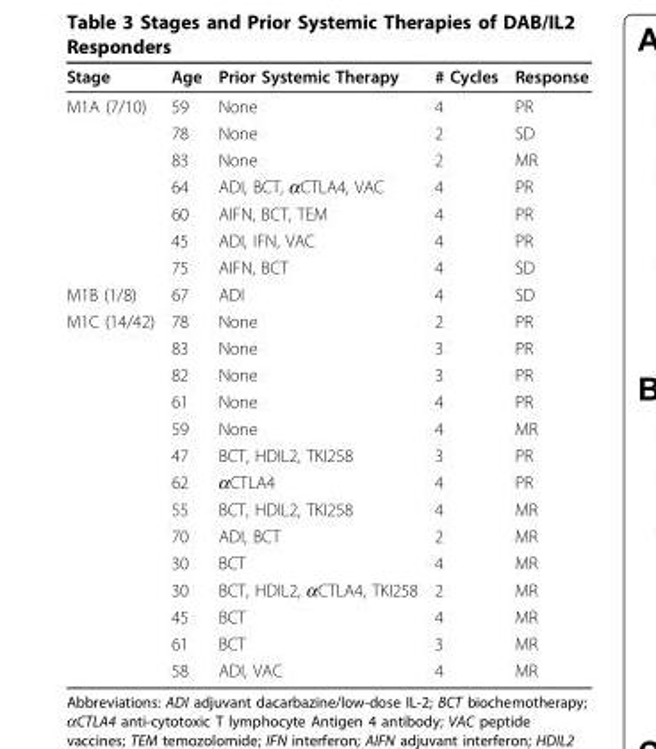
<table><thead><tr><td>Stage</td><td>Age</td><td>Prior Systemic Therapy</td><td># Cycles</td><td>Response</td></tr></thead><tbody><tr><td rowspan="7">M1A (7/10)</td><td>59</td><td>None</td><td>4</td><td>PR</td></tr><tr><td>78</td><td>None</td><td>2</td><td>SD</td></tr><tr><td>83</td><td>None</td><td>2</td><td>MR</td></tr><tr><td>64</td><td>ADI, BCT, αCTLA4, VAC</td><td>4</td><td>PR</td></tr><tr><td>60</td><td>AIFN, BCT, TEM</td><td>4</td><td>PR</td></tr><tr><td>45</td><td>ADI, IFN, VAC</td><td>4</td><td>PR</td></tr><tr><td>75</td><td>AIFN, BCT</td><td>4</td><td>SD</td></tr><tr><td>M1B (1/8)</td><td>67</td><td>ADI</td><td>4</td><td>SD</td></tr><tr><td rowspan="14">M1C (14/42)</td><td>78</td><td>None</td><td>2</td><td>PR</td></tr><tr><td>83</td><td>None</td><td>3</td><td>PR</td></tr><tr><td>82</td><td>None</td><td>3</td><td>PR</td></tr><tr><td>61</td><td>None</td><td>4</td><td>PR</td></tr><tr><td>59</td><td>None</td><td>4</td><td>MR</td></tr><tr><td>47</td><td>BCT, HDIL2, TKI258</td><td>3</td><td>PR</td></tr><tr><td>62</td><td>αCTLA4</td><td>4</td><td>PR</td></tr><tr><td>55</td><td>BCT, HDIL2, TKI258</td><td>4</td><td>MR</td></tr><tr><td>70</td><td>ADI, BCT</td><td>2</td><td>MR</td></tr><tr><td>30</td><td>BCT</td><td>4</td><td>MR</td></tr><tr><td>30</td><td>BCT, HDIL2, αCTLA4, TKI258</td><td>2</td><td>MR</td></tr><tr><td>45</td><td>BCT</td><td>4</td><td>MR</td></tr><tr><td>61</td><td>BCT</td><td>3</td><td>MR</td></tr><tr><td>58</td><td>ADI, VAC</td><td>4</td><td>MR</td></tr></tbody></table>